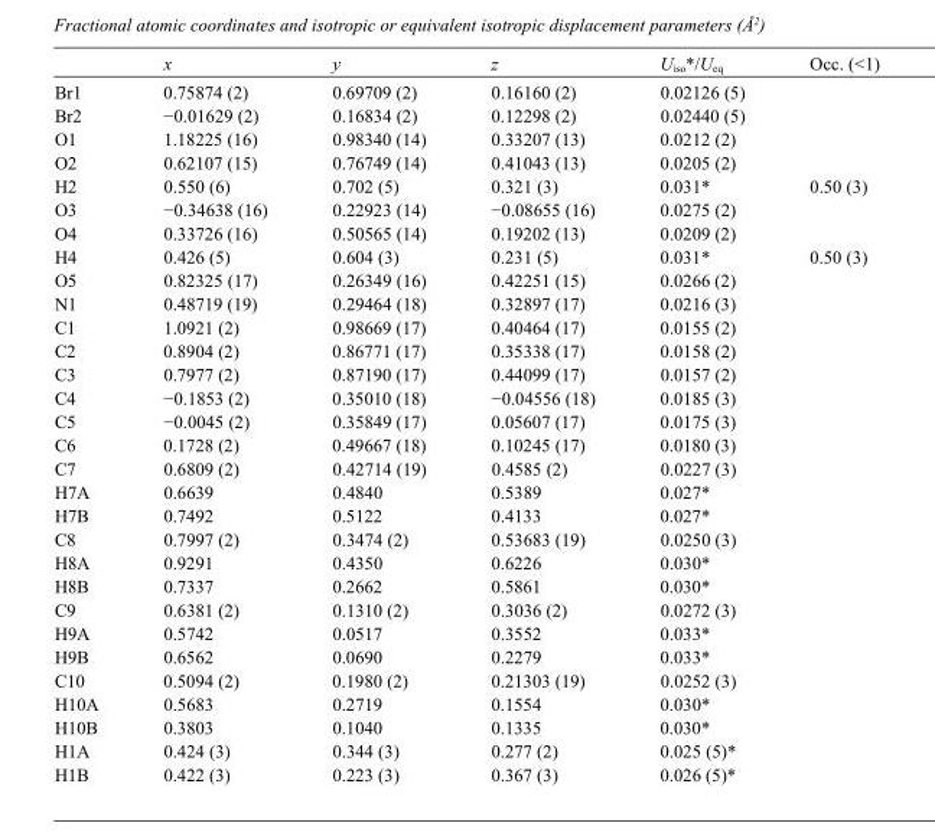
<table><thead><tr><td></td><td>x</td><td>y</td><td>z</td><td>U<sub>iso</sub>*/U<sub>eq</sub></td><td>Occ. (&lt;1)</td></tr></thead><tbody><tr><td>Br1</td><td>0.75874 (2)</td><td>0.69709 (2)</td><td>0.16160 (2)</td><td>0.02126 (5)</td><td></td></tr><tr><td>Br2</td><td>−0.01629 (2)</td><td>0.16834 (2)</td><td>0.12298 (2)</td><td>0.02440 (5)</td><td></td></tr><tr><td>O1</td><td>1.18225 (16)</td><td>0.98340 (14)</td><td>0.33207 (13)</td><td>0.0212 (2)</td><td></td></tr><tr><td>O2</td><td>0.62107 (15)</td><td>0.76749 (14)</td><td>0.41043 (13)</td><td>0.0205 (2)</td><td></td></tr><tr><td>H2</td><td>0.550 (6)</td><td>0.702 (5)</td><td>0.321 (3)</td><td>0.031*</td><td>0.50 (3)</td></tr><tr><td>O3</td><td>−0.34638 (16)</td><td>0.22923 (14)</td><td>−0.08655 (16)</td><td>0.0275 (2)</td><td></td></tr><tr><td>O4</td><td>0.33726 (16)</td><td>0.50565 (14)</td><td>0.19202 (13)</td><td>0.0209 (2)</td><td></td></tr><tr><td>H4</td><td>0.426 (5)</td><td>0.604 (3)</td><td>0.231 (5)</td><td>0.031*</td><td>0.50 (3)</td></tr><tr><td>O5</td><td>0.82325 (17)</td><td>0.26349 (16)</td><td>0.42251 (15)</td><td>0.0266 (2)</td><td></td></tr><tr><td>N1</td><td>0.48719 (19)</td><td>0.29464 (18)</td><td>0.32897 (17)</td><td>0.0216 (3)</td><td></td></tr><tr><td>C1</td><td>1.0921 (2)</td><td>0.98669 (17)</td><td>0.40464 (17)</td><td>0.0155 (2)</td><td></td></tr><tr><td>C2</td><td>0.8904 (2)</td><td>0.86771 (17)</td><td>0.35338 (17)</td><td>0.0158 (2)</td><td></td></tr><tr><td>C3</td><td>0.7977 (2)</td><td>0.87190 (17)</td><td>0.44099 (17)</td><td>0.0157 (2)</td><td></td></tr><tr><td>C4</td><td>−0.1853 (2)</td><td>0.35010 (18)</td><td>−0.04556 (18)</td><td>0.0185 (3)</td><td></td></tr><tr><td>C5</td><td>−0.0045 (2)</td><td>0.35849 (17)</td><td>0.05607 (17)</td><td>0.0175 (3)</td><td></td></tr><tr><td>C6</td><td>0.1728 (2)</td><td>0.49667 (18)</td><td>0.10245 (17)</td><td>0.0180 (3)</td><td></td></tr><tr><td>C7</td><td>0.6809 (2)</td><td>0.42714 (19)</td><td>0.4585 (2)</td><td>0.0227 (3)</td><td></td></tr><tr><td>H7A</td><td>0.6639</td><td>0.4840</td><td>0.5389</td><td>0.027*</td><td></td></tr><tr><td>H7B</td><td>0.7492</td><td>0.5122</td><td>0.4133</td><td>0.027*</td><td></td></tr><tr><td>C8</td><td>0.7997 (2)</td><td>0.3474 (2)</td><td>0.53683 (19)</td><td>0.0250 (3)</td><td></td></tr><tr><td>H8A</td><td>0.9291</td><td>0.4350</td><td>0.6226</td><td>0.030*</td><td></td></tr><tr><td>H8B</td><td>0.7337</td><td>0.2662</td><td>0.5861</td><td>0.030*</td><td></td></tr><tr><td>C9</td><td>0.6381 (2)</td><td>0.1310 (2)</td><td>0.3036 (2)</td><td>0.0272 (3)</td><td></td></tr><tr><td>H9A</td><td>0.5742</td><td>0.0517</td><td>0.3552</td><td>0.033*</td><td></td></tr><tr><td>H9B</td><td>0.6562</td><td>0.0690</td><td>0.2279</td><td>0.033*</td><td></td></tr><tr><td>C10</td><td>0.5094 (2)</td><td>0.1980 (2)</td><td>0.21303 (19)</td><td>0.0252 (3)</td><td></td></tr><tr><td>H10A</td><td>0.5683</td><td>0.2719</td><td>0.1554</td><td>0.030*</td><td></td></tr><tr><td>H10B</td><td>0.3803</td><td>0.1040</td><td>0.1335</td><td>0.030*</td><td></td></tr><tr><td>H1A</td><td>0.424 (3)</td><td>0.344 (3)</td><td>0.277 (2)</td><td>0.025 (5)*</td><td></td></tr><tr><td>H1B</td><td>0.422 (3)</td><td>0.223 (3)</td><td>0.367 (3)</td><td>0.026 (5)*</td><td></td></tr></tbody></table>